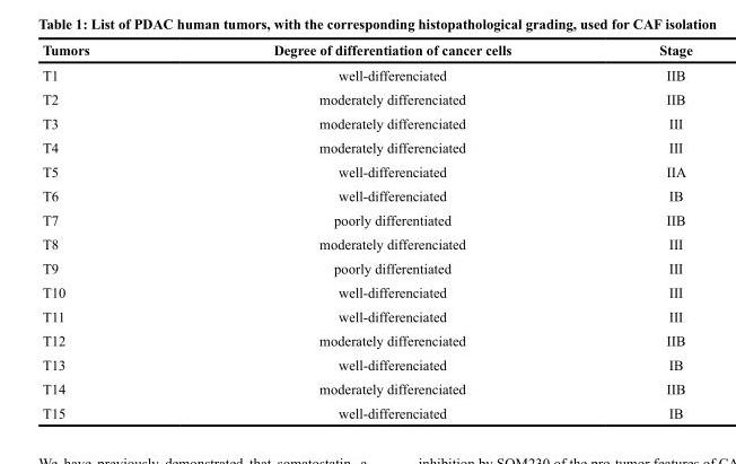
<table><thead><tr><td>Tumors</td><td>Degree of differentiation of cancer cells</td><td>Stage</td></tr></thead><tbody><tr><td>T1</td><td>well-differenciated</td><td>IIB</td></tr><tr><td>T2</td><td>moderately differenciated</td><td>IIB</td></tr><tr><td>T3</td><td>moderately differenciated</td><td>III</td></tr><tr><td>T4</td><td>moderately differenciated</td><td>III</td></tr><tr><td>T5</td><td>well-differenciated</td><td>IIA</td></tr><tr><td>T6</td><td>well-differenciated</td><td>IB</td></tr><tr><td>T7</td><td>poorly differentiated</td><td>IIB</td></tr><tr><td>T8</td><td>moderately differenciated</td><td>III</td></tr><tr><td>T9</td><td>poorly differentiated</td><td>III</td></tr><tr><td>T10</td><td>well-differenciated</td><td>III</td></tr><tr><td>T11</td><td>well-differenciated</td><td>III</td></tr><tr><td>T12</td><td>moderately differenciated</td><td>IIB</td></tr><tr><td>T13</td><td>well-differenciated</td><td>IB</td></tr><tr><td>T14</td><td>moderately differenciated</td><td>IIB</td></tr><tr><td>T15</td><td>well-differenciated</td><td>IB</td></tr></tbody></table>